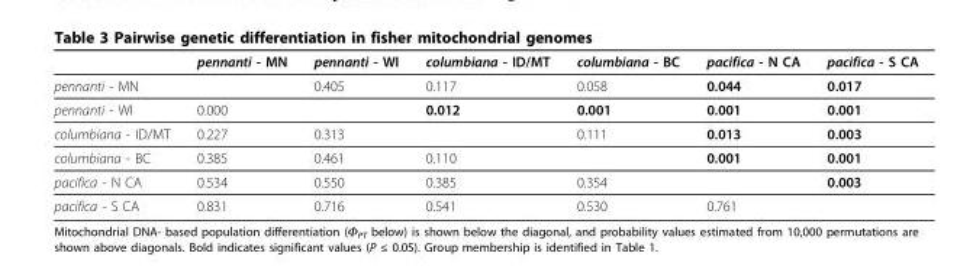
<table><thead><tr><td></td><td>pennanti - MN</td><td>pennanti - WI</td><td>columbiana - ID/MT</td><td>columbiana - BC</td><td>pacifica - N CA</td><td>pacifica - S CA</td></tr></thead><tbody><tr><td>pennanti - MN</td><td></td><td>0.405</td><td>0.117</td><td>0.058</td><td>0.044</td><td>0.017</td></tr><tr><td>pennanti - WI</td><td>0.000</td><td></td><td>0.012</td><td>0.001</td><td>0.001</td><td>0.001</td></tr><tr><td>columbiana - ID/MT</td><td>0.227</td><td>0.313</td><td></td><td>0.111</td><td>0.013</td><td>0.003</td></tr><tr><td>columbiana - BC</td><td>0.385</td><td>0.461</td><td>0.110</td><td></td><td>0.001</td><td>0.001</td></tr><tr><td>pacifica - N CA</td><td>0.534</td><td>0.550</td><td>0.385</td><td>0.354</td><td></td><td>0.003</td></tr><tr><td>pacifica - S CA</td><td>0.831</td><td>0.716</td><td>0.541</td><td>0.530</td><td>0.761</td><td></td></tr></tbody></table>